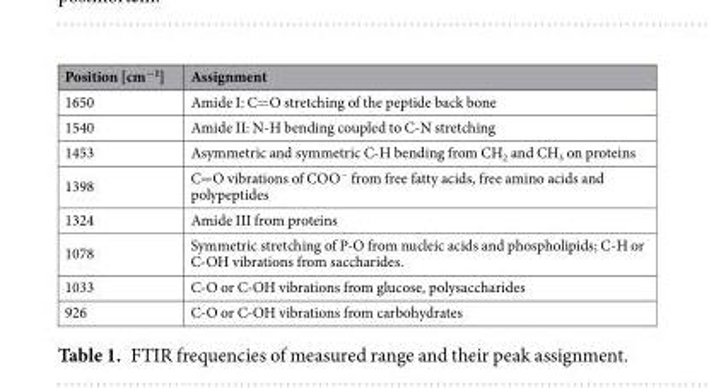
<table><thead><tr><td>Position [cm<sup>−1</sup>]</td><td>Assignment</td></tr></thead><tbody><tr><td>1650</td><td>Amide I: C=O stretching of the peptide back bone</td></tr><tr><td>1540</td><td>Amide II: N-H bending coupled to C-N stretching</td></tr><tr><td>1453</td><td>Asymmetric and symmetric C-H bending from CH<sub>2</sub> and CH<sub>3</sub> on proteins</td></tr><tr><td>1398</td><td>C=O vibrations of COO<sup>−</sup> from free fatty acids, free amino acids and polypeptides</td></tr><tr><td>1324</td><td>Amide III from proteins</td></tr><tr><td>1078</td><td>Symmetric stretching of P-O from nucleic acids and phospholipids; C-H or C-OH vibrations from saccharides.</td></tr><tr><td>1033</td><td>C-O or C-OH vibrations from glucose, polysaccharides</td></tr><tr><td>926</td><td>C-O or C-OH vibrations from carbohydrates</td></tr></tbody></table>